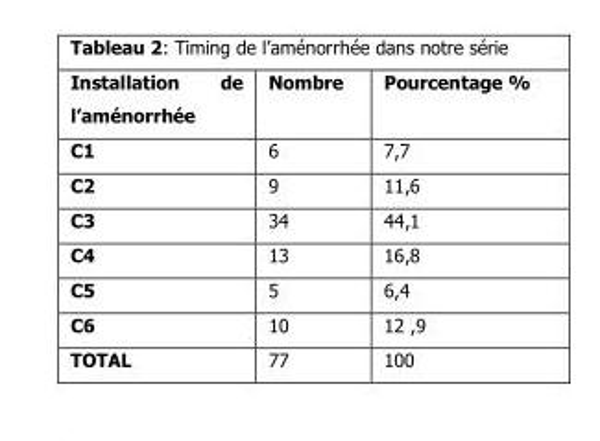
<table><thead><tr><td>Installation de l’aménorrhée</td><td>Nombre</td><td>Pourcentage %</td></tr></thead><tbody><tr><td>C1</td><td>6</td><td>7,7</td></tr><tr><td>C2</td><td>9</td><td>11,6</td></tr><tr><td>C3</td><td>34</td><td>44,1</td></tr><tr><td>C4</td><td>13</td><td>16,8</td></tr><tr><td>C5</td><td>5</td><td>6,4</td></tr><tr><td>C6</td><td>10</td><td>12 ,9</td></tr><tr><td>TOTAL</td><td>77</td><td>100</td></tr></tbody></table>